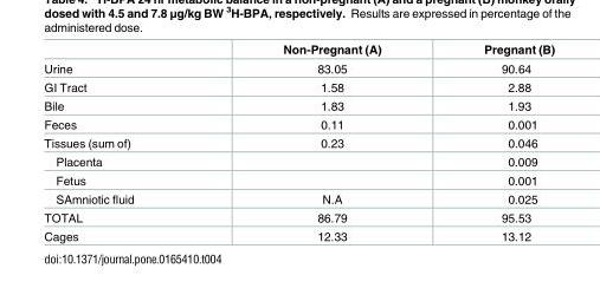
<table><thead><tr><td></td><td>Non-Pregnant (A)</td><td>Pregnant (B)</td></tr></thead><tbody><tr><td>Urine</td><td>83.05</td><td>90.64</td></tr><tr><td>GI Tract</td><td>1.58</td><td>2.88</td></tr><tr><td>Bile</td><td>1.83</td><td>1.93</td></tr><tr><td>Feces</td><td>0.11</td><td>0.001</td></tr><tr><td>Tissues (sum of)</td><td>0.23</td><td>0.046</td></tr><tr><td>Placenta</td><td></td><td>0.009</td></tr><tr><td>Fetus</td><td></td><td>0.001</td></tr><tr><td>SAmniotic fluid</td><td>N.A</td><td>0.025</td></tr><tr><td>TOTAL</td><td>86.79</td><td>95.53</td></tr><tr><td>Cages</td><td>12.33</td><td>13.12</td></tr></tbody></table>